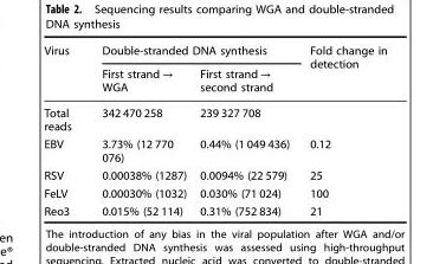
<table><thead><tr><td rowspan="2">Virus</td><td colspan="2">Double-stranded DNA synthesis</td><td rowspan="2">Fold change in detection</td></tr><tr><td>First strand → WGA</td><td>First strand → second strand</td></tr></thead><tbody><tr><td>Total reads</td><td>342 470 258</td><td>239 327 708</td><td></td></tr><tr><td>EBV</td><td>3.73% (12 770 076)</td><td>0.44% (1 049 436)</td><td>0.12</td></tr><tr><td>RSV</td><td>0.00038% (1287)</td><td>0.0094% (22 579)</td><td>25</td></tr><tr><td>FeLV</td><td>0.00030% (1032)</td><td>0.030% (71 024)</td><td>100</td></tr><tr><td>Reo3</td><td>0.015% (52 114)</td><td>0.31% (752 834)</td><td>21</td></tr></tbody></table>